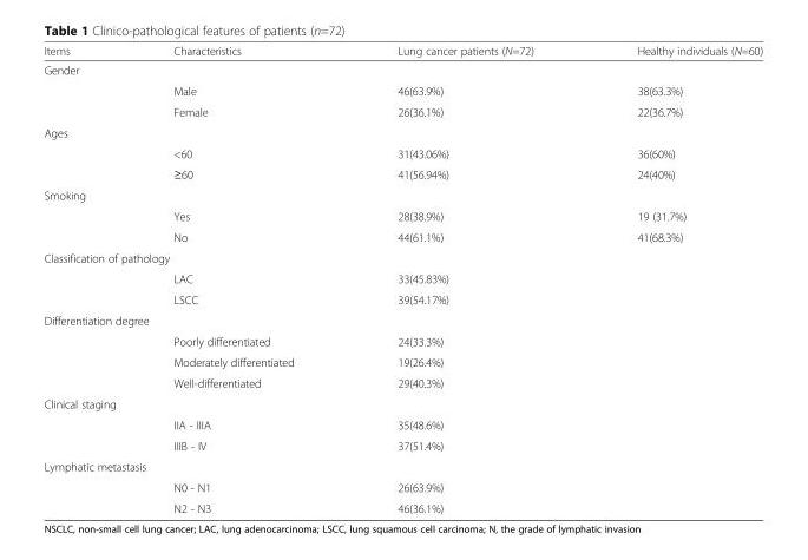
<table><thead><tr><td>Items</td><td>Characteristics</td><td>Lung cancer patients (N=72)</td><td>Healthy individuals (N=60)</td></tr></thead><tbody><tr><td colspan="4">Gender</td></tr><tr><td></td><td>Male</td><td>46(63.9%)</td><td>38(63.3%)</td></tr><tr><td></td><td>Female</td><td>26(36.1%)</td><td>22(36.7%)</td></tr><tr><td colspan="4">Ages</td></tr><tr><td></td><td>&lt;60</td><td>31(43.06%)</td><td>36(60%)</td></tr><tr><td></td><td>≥60</td><td>41(56.94%)</td><td>24(40%)</td></tr><tr><td colspan="4">Smoking</td></tr><tr><td></td><td>Yes</td><td>28(38.9%)</td><td>19 (31.7%)</td></tr><tr><td></td><td>No</td><td>44(61.1%)</td><td>41(68.3%)</td></tr><tr><td colspan="4">Classification of pathology</td></tr><tr><td></td><td>LAC</td><td>33(45.83%)</td><td></td></tr><tr><td></td><td>LSCC</td><td>39(54.17%)</td><td></td></tr><tr><td colspan="4">Differentiation degree</td></tr><tr><td></td><td>Poorly differentiated</td><td>24(33.3%)</td><td></td></tr><tr><td></td><td>Moderately differentiated</td><td>19(26.4%)</td><td></td></tr><tr><td></td><td>Well-differentiated</td><td>29(40.3%)</td><td></td></tr><tr><td colspan="4">Clinical staging</td></tr><tr><td></td><td>IIA - IIIA</td><td>35(48.6%)</td><td></td></tr><tr><td></td><td>IIIB - IV</td><td>37(51.4%)</td><td></td></tr><tr><td colspan="4">Lymphatic metastasis</td></tr><tr><td></td><td>N0 - N1</td><td>26(63.9%)</td><td></td></tr><tr><td></td><td>N2 - N3</td><td>46(36.1%)</td><td></td></tr></tbody></table>